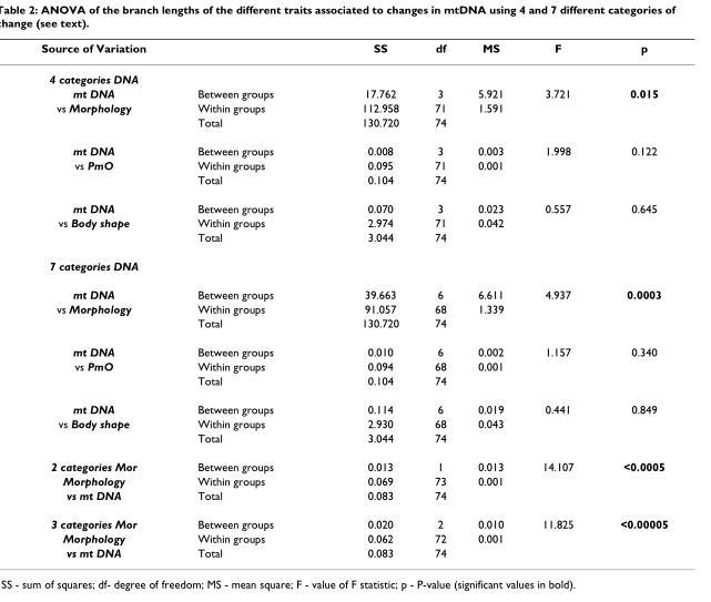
<table><thead><tr><td>Source of Variation</td><td></td><td>SS</td><td>df</td><td>MS</td><td>F</td><td>p</td></tr></thead><tbody><tr><td colspan="7">4 categories DNA</td></tr><tr><td>mt DNA</td><td>Between groups</td><td>17.762</td><td>3</td><td>5.921</td><td>3.721</td><td>0.015</td></tr><tr><td rowspan="2">vs Morphology</td><td>Within groups</td><td>112.958</td><td>71</td><td>1.591</td><td></td><td></td></tr><tr><td>Total</td><td>130.720</td><td>74</td><td></td><td></td><td></td></tr><tr><td>mt DNA</td><td>Between groups</td><td>0.008</td><td>3</td><td>0.003</td><td>1.998</td><td>0.122</td></tr><tr><td rowspan="2">vs PmO</td><td>Within groups</td><td>0.095</td><td>71</td><td>0.001</td><td></td><td></td></tr><tr><td>Total</td><td>0.104</td><td>74</td><td></td><td></td><td></td></tr><tr><td>mt DNA</td><td>Between groups</td><td>0.070</td><td>3</td><td>0.023</td><td>0.557</td><td>0.645</td></tr><tr><td rowspan="2">vs Body shape</td><td>Within groups</td><td>2.974</td><td>71</td><td>0.042</td><td></td><td></td></tr><tr><td>Total</td><td>3.044</td><td>74</td><td></td><td></td><td></td></tr><tr><td colspan="7">7 categories DNA</td></tr><tr><td>mt DNA</td><td>Between groups</td><td>39.663</td><td>6</td><td>6.611</td><td>4.937</td><td>0.0003</td></tr><tr><td rowspan="2">vs Morphology</td><td>Within groups</td><td>91.057</td><td>68</td><td>1.339</td><td></td><td></td></tr><tr><td>Total</td><td>130.720</td><td>74</td><td></td><td></td><td></td></tr><tr><td>mt DNA</td><td>Between groups</td><td>0.010</td><td>6</td><td>0.002</td><td>1.157</td><td>0.340</td></tr><tr><td rowspan="2">vs PmO</td><td>Within groups</td><td>0.094</td><td>68</td><td>0.001</td><td></td><td></td></tr><tr><td>Total</td><td>0.104</td><td>74</td><td></td><td></td><td></td></tr><tr><td>mt DNA</td><td>Between groups</td><td>0.114</td><td>6</td><td>0.019</td><td>0.441</td><td>0.849</td></tr><tr><td rowspan="2">vs Body shape</td><td>Within groups</td><td>2.930</td><td>68</td><td>0.043</td><td></td><td></td></tr><tr><td>Total</td><td>3.044</td><td>74</td><td></td><td></td><td></td></tr><tr><td>2 categories Mor</td><td>Between groups</td><td>0.013</td><td>1</td><td>0.013</td><td>14.107</td><td>&lt;0.0005</td></tr><tr><td>Morphology</td><td>Within groups</td><td>0.069</td><td>73</td><td>0.001</td><td></td><td></td></tr><tr><td>vs mt DNA</td><td>Total</td><td>0.083</td><td>74</td><td></td><td></td><td></td></tr><tr><td>3 categories Mor</td><td>Between groups</td><td>0.020</td><td>2</td><td>0.010</td><td>11.825</td><td>&lt;0.00005</td></tr><tr><td>Morphology</td><td>Within groups</td><td>0.062</td><td>72</td><td>0.001</td><td></td><td></td></tr><tr><td>vs mt DNA</td><td>Total</td><td>0.083</td><td>74</td><td></td><td></td><td></td></tr></tbody></table>